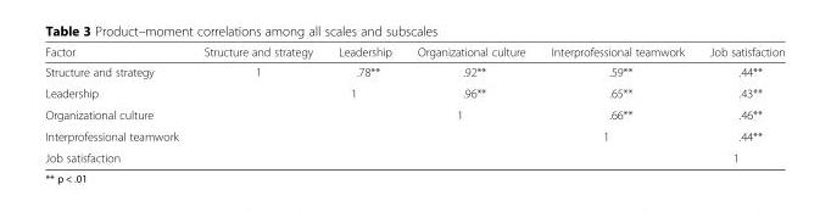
<table><thead><tr><td>Factor</td><td>Structure and strategy</td><td>Leadership</td><td>Organizational culture</td><td>Interprofessional teamwork</td><td>Job satisfaction</td></tr></thead><tbody><tr><td>Structure and strategy</td><td>1</td><td>.78**</td><td>.92**</td><td>.59**</td><td>.44**</td></tr><tr><td>Leadership</td><td></td><td>1</td><td>.96**</td><td>.65**</td><td>.43**</td></tr><tr><td>Organizational culture</td><td></td><td></td><td>1</td><td>.66**</td><td>.46**</td></tr><tr><td>Interprofessional teamwork</td><td></td><td></td><td></td><td>1</td><td>.44**</td></tr><tr><td>Job satisfaction</td><td></td><td></td><td></td><td></td><td>1</td></tr></tbody></table>